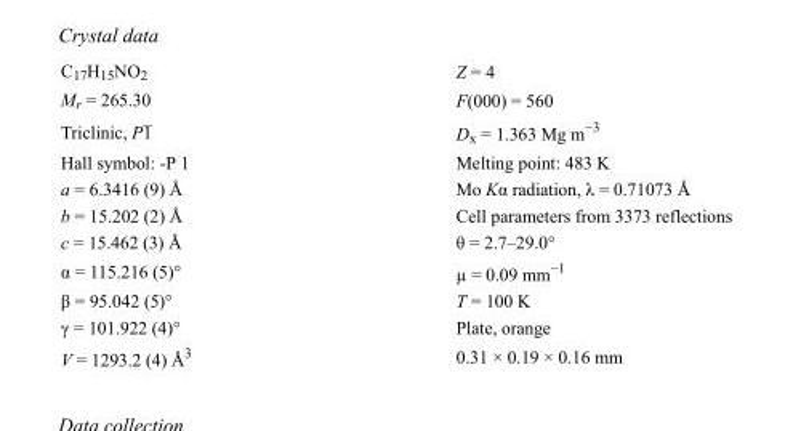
<table><tbody><tr><td>C<sub>17</sub>H<sub>15</sub>NO<sub>2</sub></td><td>Z = 4</td></tr><tr><td>M<sub>r</sub> = 265.30</td><td>F(000) = 560</td></tr><tr><td>Triclinic, P1</td><td>D<sub>x</sub> = 1.363 Mg m<sup>−3</sup></td></tr><tr><td>Hall symbol: -P 1</td><td>Melting point: 483 K</td></tr><tr><td>a = 6.3416 (9) Å</td><td>Mo Kα radiation, λ = 0.71073 Å</td></tr><tr><td>b = 15.202 (2) Å</td><td>Cell parameters from 3373 reflections</td></tr><tr><td>c = 15.462 (3) Å</td><td>θ = 2.7–29.0°</td></tr><tr><td>α = 115.216 (5)°</td><td>µ = 0.09 mm<sup>−1</sup></td></tr><tr><td>β = 95.042 (5)°</td><td>T = 100 K</td></tr><tr><td>γ = 101.922 (4)°</td><td>Plate, orange</td></tr><tr><td>V = 1293.2 (4) Å<sup>3</sup></td><td>0.31 × 0.19 × 0.16 mm</td></tr></tbody></table>